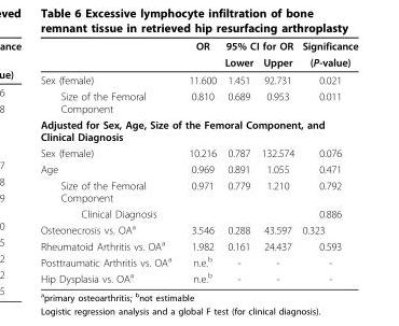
<table><thead><tr><td rowspan="2"></td><td rowspan="2">OR</td><td colspan="2">95% CI for OR</td><td rowspan="2">Significance (P-value)</td></tr><tr><td>Lower</td><td>Upper</td></tr></thead><tbody><tr><td>Sex (female)</td><td>11.600</td><td>1.451</td><td>92.731</td><td>0.021</td></tr><tr><td>Size of the Femoral Component</td><td>0.810</td><td>0.689</td><td>0.953</td><td>0.011</td></tr><tr><td colspan="5">Adjusted for Sex, Age, Size of the Femoral Component, and Clinical Diagnosis</td></tr><tr><td>Sex (female)</td><td>10.216</td><td>0.787</td><td>132.574</td><td>0.076</td></tr><tr><td>Age</td><td>0.969</td><td>0.891</td><td>1.055</td><td>0.471</td></tr><tr><td>Size of the Femoral Component</td><td>0.971</td><td>0.779</td><td>1.210</td><td>0.792</td></tr><tr><td>Clinical Diagnosis</td><td></td><td></td><td></td><td>0.886</td></tr><tr><td>Osteonecrosis vs. OA<sup>a</sup></td><td>3.546</td><td>0.288</td><td>43.597</td><td>0.323</td></tr><tr><td>Rheumatoid Arthritis vs. OA<sup>a</sup></td><td>1.982</td><td>0.161</td><td>24.437</td><td>0.593</td></tr><tr><td>Posttraumatic Arthritis vs. OA<sup>a</sup></td><td>n.e.<sup>b</sup></td><td>-</td><td>-</td><td>-</td></tr><tr><td>Hip Dysplasia vs. OA<sup>a</sup></td><td>n.e.<sup>b</sup></td><td>-</td><td>-</td><td>-</td></tr></tbody></table>